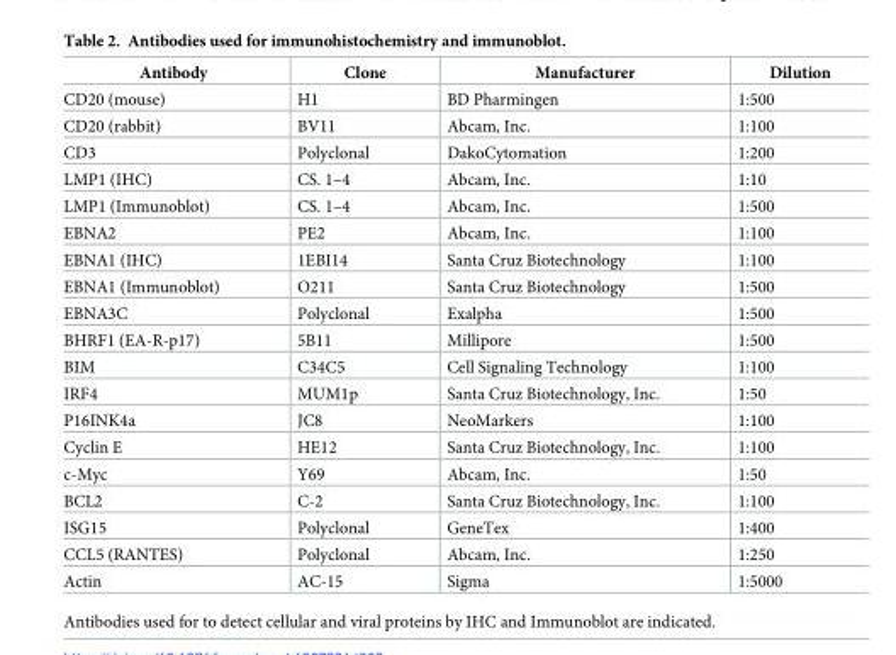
<table><thead><tr><td>Antibody</td><td>Clone</td><td>Manufacturer</td><td>Dilution</td></tr></thead><tbody><tr><td>CD20 (mouse)</td><td>H1</td><td>BD Pharmingen</td><td>1:500</td></tr><tr><td>CD20 (rabbit)</td><td>BV11</td><td>Abcam, Inc.</td><td>1:100</td></tr><tr><td>CD3</td><td>Polyclonal</td><td>DakoCytomation</td><td>1:200</td></tr><tr><td>LMP1 (IHC)</td><td>CS. 1–4</td><td>Abcam, Inc.</td><td>1:10</td></tr><tr><td>LMP1 (Immunoblot)</td><td>CS. 1–4</td><td>Abcam, Inc.</td><td>1:500</td></tr><tr><td>EBNA2</td><td>PE2</td><td>Abcam, Inc.</td><td>1:100</td></tr><tr><td>EBNA1 (IHC)</td><td>1EBI14</td><td>Santa Cruz Biotechnology</td><td>1:100</td></tr><tr><td>EBNA1 (Immunoblot)</td><td>O211</td><td>Santa Cruz Biotechnology</td><td>1:500</td></tr><tr><td>EBNA3C</td><td>Polyclonal</td><td>Exalpha</td><td>1:500</td></tr><tr><td>BHRF1 (EA-R-p17)</td><td>5B11</td><td>Millipore</td><td>1:500</td></tr><tr><td>BIM</td><td>C34C5</td><td>Cell Signaling Technology</td><td>1:100</td></tr><tr><td>IRF4</td><td>MUM1p</td><td>Santa Cruz Biotechnology, Inc.</td><td>1:50</td></tr><tr><td>P16INK4a</td><td>JC8</td><td>NeoMarkers</td><td>1:100</td></tr><tr><td>Cyclin E</td><td>HE12</td><td>Santa Cruz Biotechnology, Inc.</td><td>1:100</td></tr><tr><td>c-Myc</td><td>Y69</td><td>Abcam, Inc.</td><td>1:50</td></tr><tr><td>BCL2</td><td>C-2</td><td>Santa Cruz Biotechnology, Inc.</td><td>1:100</td></tr><tr><td>ISG15</td><td>Polyclonal</td><td>GeneTex</td><td>1:400</td></tr><tr><td>CCL5 (RANTES)</td><td>Polyclonal</td><td>Abcam, Inc.</td><td>1:250</td></tr><tr><td>Actin</td><td>AC-15</td><td>Sigma</td><td>1:5000</td></tr></tbody></table>